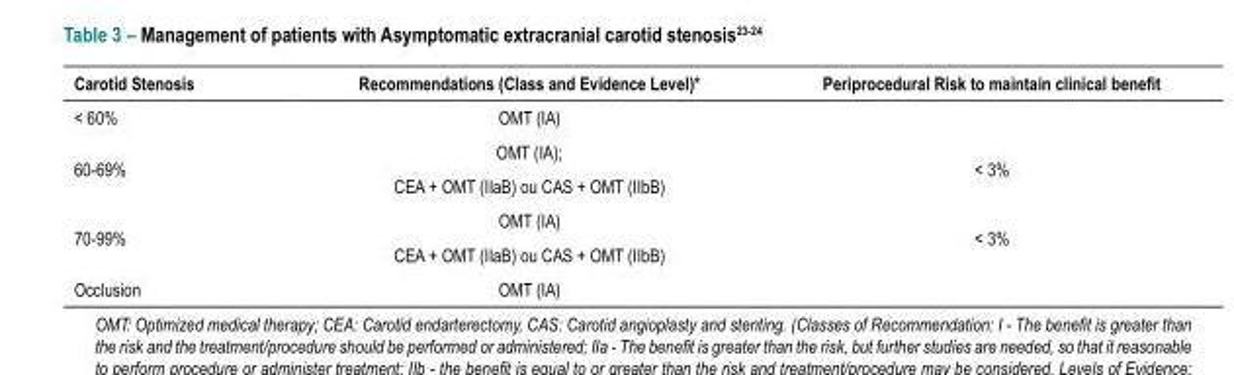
<table><thead><tr><td>Carotid Stenosis</td><td>Recommendations (Class and Evidence Level)*</td><td>Periprocedural Risk to maintain clinical benefit</td></tr></thead><tbody><tr><td>&lt; 60%</td><td>OMT (IA)</td><td></td></tr><tr><td rowspan="2">60-69%</td><td>OMT (IA);</td><td rowspan="2">&lt; 3%</td></tr><tr><td>CEA + OMT (IIaB) ou CAS + OMT (IIbB)</td></tr><tr><td rowspan="2">70-99%</td><td>OMT (IA)</td><td rowspan="2">&lt; 3%</td></tr><tr><td>CEA + OMT (IIaB) ou CAS + OMT (IIbB)</td></tr><tr><td>Occlusion</td><td>OMT (IA)</td><td></td></tr></tbody></table>